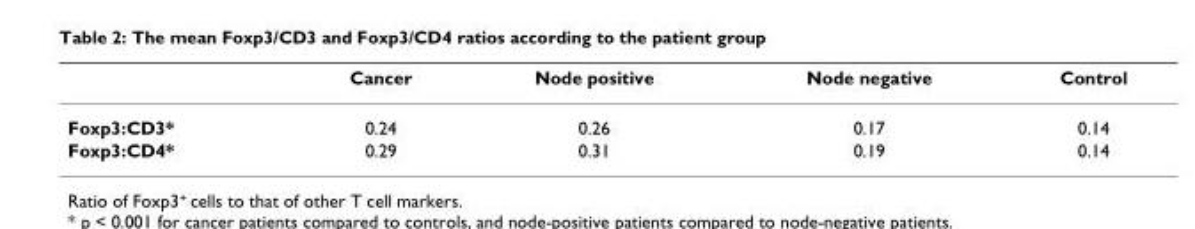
<table><thead><tr><td></td><td>Cancer</td><td>Node positive</td><td>Node negative</td><td>Control</td></tr></thead><tbody><tr><td>Foxp3:CD3*</td><td>0.24</td><td>0.26</td><td>0.17</td><td>0.14</td></tr><tr><td>Foxp3:CD4*</td><td>0.29</td><td>0.31</td><td>0.19</td><td>0.14</td></tr></tbody></table>